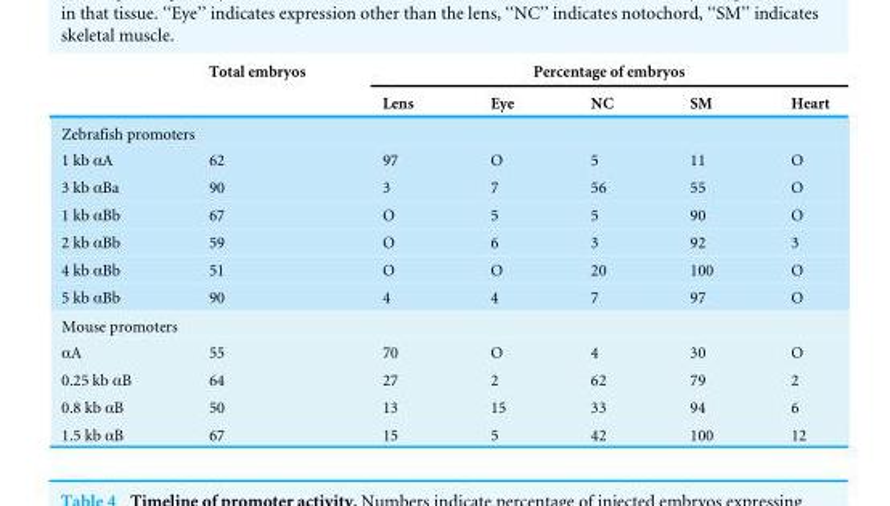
<table><thead><tr><td rowspan="2"></td><td rowspan="2">Total embryos</td><td colspan="5">Percentage of embryos</td></tr><tr><td>Lens</td><td>Eye</td><td>NC</td><td>SM</td><td>Heart</td></tr></thead><tbody><tr><td colspan="7">Zebrafish promoters</td></tr><tr><td>1 kb αA</td><td>62</td><td>97</td><td>O</td><td>5</td><td>11</td><td>O</td></tr><tr><td>3 kb αBa</td><td>90</td><td>3</td><td>7</td><td>56</td><td>55</td><td>O</td></tr><tr><td>1 kb αBb</td><td>67</td><td>O</td><td>5</td><td>5</td><td>90</td><td>O</td></tr><tr><td>2 kb αBb</td><td>59</td><td>O</td><td>6</td><td>3</td><td>92</td><td>3</td></tr><tr><td>4 kb αBb</td><td>51</td><td>O</td><td>O</td><td>20</td><td>100</td><td>O</td></tr><tr><td>5 kb αBb</td><td>90</td><td>4</td><td>4</td><td>7</td><td>97</td><td>O</td></tr><tr><td colspan="7">Mouse promoters</td></tr><tr><td>αA</td><td>55</td><td>70</td><td>O</td><td>4</td><td>30</td><td>O</td></tr><tr><td>0.25 kb αB</td><td>64</td><td>27</td><td>2</td><td>62</td><td>79</td><td>2</td></tr><tr><td>0.8 kb αB</td><td>50</td><td>13</td><td>15</td><td>33</td><td>94</td><td>6</td></tr><tr><td>1.5 kb αB</td><td>67</td><td>15</td><td>5</td><td>42</td><td>100</td><td>12</td></tr></tbody></table>